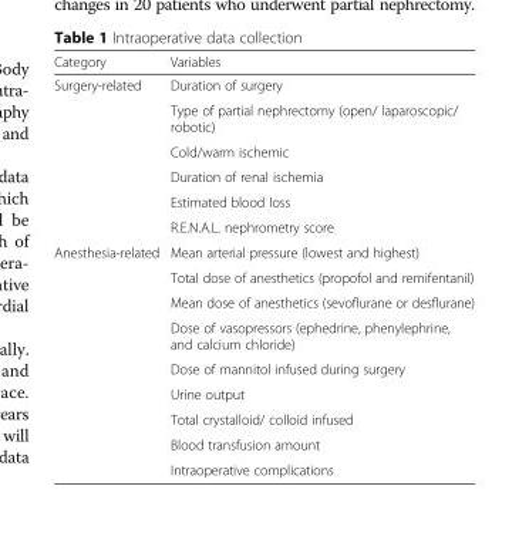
<table><thead><tr><td>Category</td><td>Variables</td></tr></thead><tbody><tr><td rowspan="6">Surgery-related</td><td>Duration of surgery</td></tr><tr><td>Type of partial nephrectomy (open/ laparoscopic/ robotic)</td></tr><tr><td>Cold/warm ischemic</td></tr><tr><td>Duration of renal ischemia</td></tr><tr><td>Estimated blood loss</td></tr><tr><td>R.E.N.A.L. nephrometry score</td></tr><tr><td rowspan="9">Anesthesia-related</td><td>Mean arterial pressure (lowest and highest)</td></tr><tr><td>Total dose of anesthetics (propofol and remifentanil)</td></tr><tr><td>Mean dose of anesthetics (sevoflurane or desflurane)</td></tr><tr><td>Dose of vasopressors (ephedrine, phenylephrine, and calcium chloride)</td></tr><tr><td>Dose of mannitol infused during surgery</td></tr><tr><td>Urine output</td></tr><tr><td>Total crystalloid/ colloid infused</td></tr><tr><td>Blood transfusion amount</td></tr><tr><td>Intraoperative complications</td></tr></tbody></table>